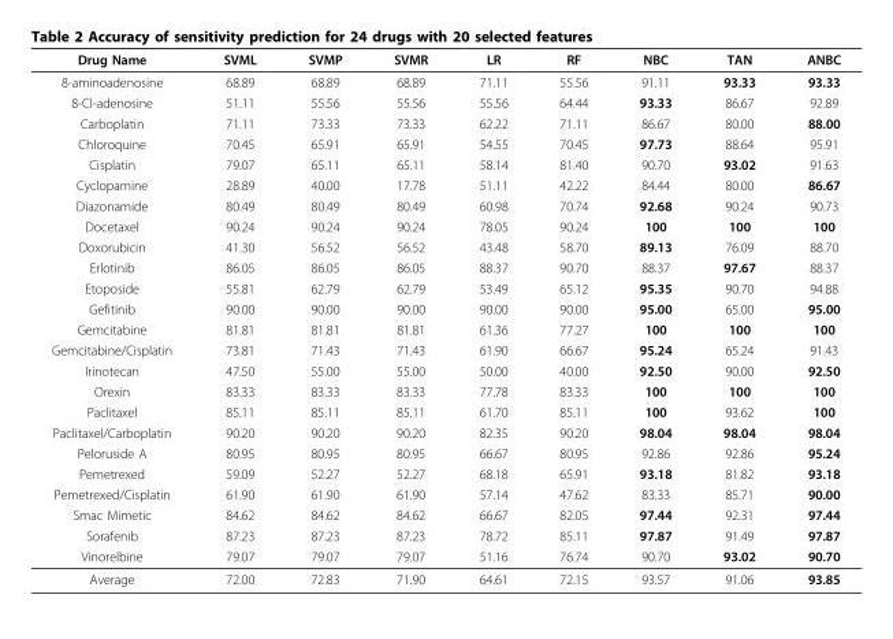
<table><thead><tr><td>Drug Name</td><td>SVML</td><td>SVMP</td><td>SVMR</td><td>LR</td><td>RF</td><td>NBC</td><td>TAN</td><td>ANBC</td></tr></thead><tbody><tr><td>8-aminoadenosine</td><td>68.89</td><td>68.89</td><td>68.89</td><td>71.11</td><td>55.56</td><td>91.11</td><td>93.33</td><td>93.33</td></tr><tr><td>8-Cl-adenosine</td><td>51.11</td><td>55.56</td><td>55.56</td><td>55.56</td><td>64.44</td><td>93.33</td><td>86.67</td><td>92.89</td></tr><tr><td>Carboplatin</td><td>71.11</td><td>73.33</td><td>73.33</td><td>62.22</td><td>71.11</td><td>86.67</td><td>80.00</td><td>88.00</td></tr><tr><td>Chloroquine</td><td>70.45</td><td>65.91</td><td>65.91</td><td>54.55</td><td>70.45</td><td>97.73</td><td>88.64</td><td>95.91</td></tr><tr><td>Cisplatin</td><td>79.07</td><td>65.11</td><td>65.11</td><td>58.14</td><td>81.40</td><td>90.70</td><td>93.02</td><td>91.63</td></tr><tr><td>Cyclopamine</td><td>28.89</td><td>40.00</td><td>17.78</td><td>51.11</td><td>42.22</td><td>84.44</td><td>80.00</td><td>86.67</td></tr><tr><td>Diazonamide</td><td>80.49</td><td>80.49</td><td>80.49</td><td>60.98</td><td>70.74</td><td>92.68</td><td>90.24</td><td>90.73</td></tr><tr><td>Docetaxel</td><td>90.24</td><td>90.24</td><td>90.24</td><td>78.05</td><td>90.24</td><td>100</td><td>100</td><td>100</td></tr><tr><td>Doxorubicin</td><td>41.30</td><td>56.52</td><td>56.52</td><td>43.48</td><td>58.70</td><td>89.13</td><td>76.09</td><td>88.70</td></tr><tr><td>Erlotinib</td><td>86.05</td><td>86.05</td><td>86.05</td><td>88.37</td><td>90.70</td><td>88.37</td><td>97.67</td><td>88.37</td></tr><tr><td>Etoposide</td><td>55.81</td><td>62.79</td><td>62.79</td><td>53.49</td><td>65.12</td><td>95.35</td><td>90.70</td><td>94.88</td></tr><tr><td>Gefitinib</td><td>90.00</td><td>90.00</td><td>90.00</td><td>90.00</td><td>90.00</td><td>95.00</td><td>65.00</td><td>95.00</td></tr><tr><td>Gemcitabine</td><td>81.81</td><td>81.81</td><td>81.81</td><td>61.36</td><td>77.27</td><td>100</td><td>100</td><td>100</td></tr><tr><td>Gemcitabine/Cisplatin</td><td>73.81</td><td>71.43</td><td>71.43</td><td>61.90</td><td>66.67</td><td>95.24</td><td>65.24</td><td>91.43</td></tr><tr><td>Irinotecan</td><td>47.50</td><td>55.00</td><td>55.00</td><td>50.00</td><td>40.00</td><td>92.50</td><td>90.00</td><td>92.50</td></tr><tr><td>Orexin</td><td>83.33</td><td>83.33</td><td>83.33</td><td>77.78</td><td>83.33</td><td>100</td><td>100</td><td>100</td></tr><tr><td>Paclitaxel</td><td>85.11</td><td>85.11</td><td>85.11</td><td>61.70</td><td>85.11</td><td>100</td><td>93.62</td><td>100</td></tr><tr><td>Paclitaxel/Carboplatin</td><td>90.20</td><td>90.20</td><td>90.20</td><td>82.35</td><td>90.20</td><td>98.04</td><td>98.04</td><td>98.04</td></tr><tr><td>Peloruside A</td><td>80.95</td><td>80.95</td><td>80.95</td><td>66.67</td><td>80.95</td><td>92.86</td><td>92.86</td><td>95.24</td></tr><tr><td>Pemetrexed</td><td>59.09</td><td>52.27</td><td>52.27</td><td>68.18</td><td>65.91</td><td>93.18</td><td>81.82</td><td>93.18</td></tr><tr><td>Pemetrexed/Cisplatin</td><td>61.90</td><td>61.90</td><td>61.90</td><td>57.14</td><td>47.62</td><td>83.33</td><td>85.71</td><td>90.00</td></tr><tr><td>Smac Mimetic</td><td>84.62</td><td>84.62</td><td>84.62</td><td>66.67</td><td>82.05</td><td>97.44</td><td>92.31</td><td>97.44</td></tr><tr><td>Sorafenib</td><td>87.23</td><td>87.23</td><td>87.23</td><td>78.72</td><td>85.11</td><td>97.87</td><td>91.49</td><td>97.87</td></tr><tr><td>Vinorelbine</td><td>79.07</td><td>79.07</td><td>79.07</td><td>51.16</td><td>76.74</td><td>90.70</td><td>93.02</td><td>90.70</td></tr><tr><td>Average</td><td>72.00</td><td>72.83</td><td>71.90</td><td>64.61</td><td>72.15</td><td>93.57</td><td>91.06</td><td>93.85</td></tr></tbody></table>